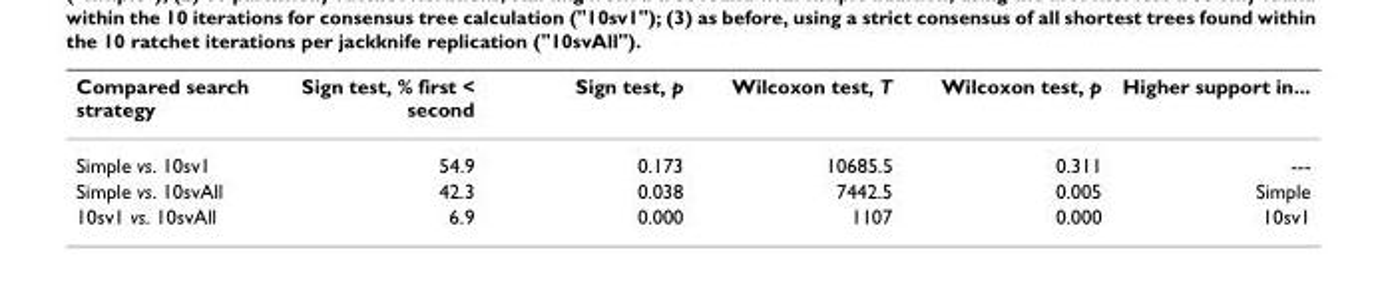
<table><thead><tr><td>Compared search strategy</td><td>Sign test, % first &lt; second</td><td>Sign test, p</td><td>Wilcoxon test, T</td><td>Wilcoxon test, p</td><td>Higher support in...</td></tr></thead><tbody><tr><td>Simple vs. 10sv1</td><td>54.9</td><td>0.173</td><td>10685.5</td><td>0.311</td><td>---</td></tr><tr><td>Simple vs. 10svAll</td><td>42.3</td><td>0.038</td><td>7442.5</td><td>0.005</td><td>Simple</td></tr><tr><td>10sv1 vs. 10svAll</td><td>6.9</td><td>0.000</td><td>1107</td><td>0.000</td><td>10sv1</td></tr></tbody></table>